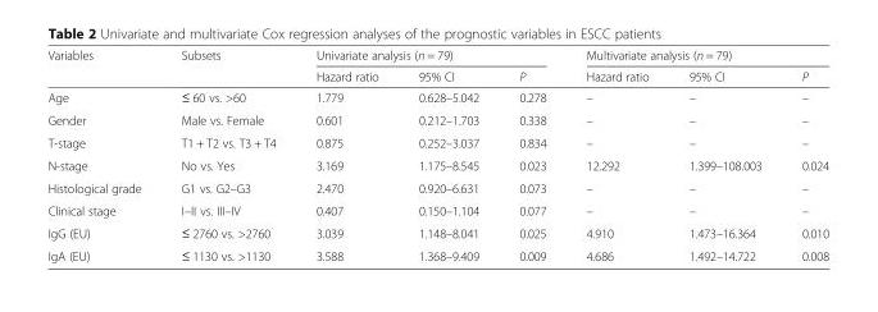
<table><thead><tr><td rowspan="2">Variables</td><td rowspan="2">Subsets</td><td colspan="3">Univariate analysis (n = 79)</td><td colspan="3">Multivariate analysis (n = 79)</td></tr><tr><td>Hazard ratio</td><td>95% CI</td><td>P</td><td>Hazard ratio</td><td>95% CI</td><td>P</td></tr></thead><tbody><tr><td>Age</td><td>≤ 60 vs. &gt;60</td><td>1.779</td><td>0.628–5.042</td><td>0.278</td><td>–</td><td>–</td><td>–</td></tr><tr><td>Gender</td><td>Male vs. Female</td><td>0.601</td><td>0.212–1.703</td><td>0.338</td><td>–</td><td>–</td><td>–</td></tr><tr><td>T-stage</td><td>T1 + T2 vs. T3 + T4</td><td>0.875</td><td>0.252–3.037</td><td>0.834</td><td>–</td><td>–</td><td>–</td></tr><tr><td>N-stage</td><td>No vs. Yes</td><td>3.169</td><td>1.175–8.545</td><td>0.023</td><td>12.292</td><td>1.399–108.003</td><td>0.024</td></tr><tr><td>Histological grade</td><td>G1 vs. G2–G3</td><td>2.470</td><td>0.920–6.631</td><td>0.073</td><td>–</td><td>–</td><td>–</td></tr><tr><td>Clinical stage</td><td>I–II vs. III–IV</td><td>0.407</td><td>0.150–1.104</td><td>0.077</td><td>–</td><td>–</td><td>–</td></tr><tr><td>IgG (EU)</td><td>≤ 2760 vs. &gt;2760</td><td>3.039</td><td>1.148–8.041</td><td>0.025</td><td>4.910</td><td>1.473–16.364</td><td>0.010</td></tr><tr><td>IgA (EU)</td><td>≤ 1130 vs. &gt;1130</td><td>3.588</td><td>1.368–9.409</td><td>0.009</td><td>4.686</td><td>1.492–14.722</td><td>0.008</td></tr></tbody></table>